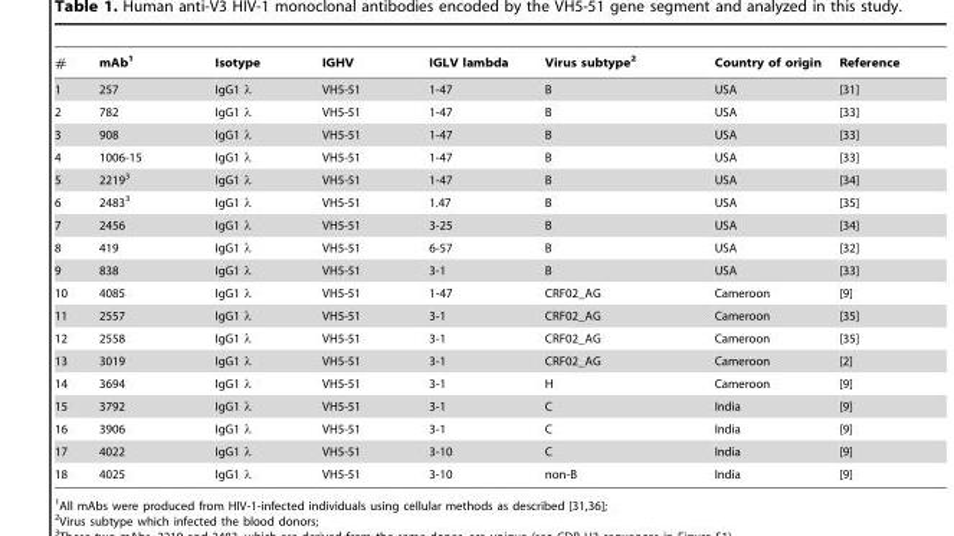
<table><thead><tr><td>#</td><td>mAb<sup>1</sup></td><td>Isotype</td><td>IGHV</td><td>IGLV lambda</td><td>Virus subtype<sup>2</sup></td><td>Country of origin</td><td>Reference</td></tr></thead><tbody><tr><td>1</td><td>257</td><td>IgG1 λ</td><td>VH5-51</td><td>1-47</td><td>B</td><td>USA</td><td>[31]</td></tr><tr><td>2</td><td>782</td><td>IgG1 λ</td><td>VH5-51</td><td>1-47</td><td>B</td><td>USA</td><td>[33]</td></tr><tr><td>3</td><td>908</td><td>IgG1 λ</td><td>VH5-51</td><td>1-47</td><td>B</td><td>USA</td><td>[33]</td></tr><tr><td>4</td><td>1006-15</td><td>IgG1 λ</td><td>VH5-51</td><td>1-47</td><td>B</td><td>USA</td><td>[33]</td></tr><tr><td>5</td><td>2219<sup>3</sup></td><td>IgG1 λ</td><td>VH5-51</td><td>1-47</td><td>B</td><td>USA</td><td>[34]</td></tr><tr><td>6</td><td>2483<sup>3</sup></td><td>IgG1 λ</td><td>VH5-51</td><td>1.47</td><td>B</td><td>USA</td><td>[35]</td></tr><tr><td>7</td><td>2456</td><td>IgG1 λ</td><td>VH5-51</td><td>3-25</td><td>B</td><td>USA</td><td>[34]</td></tr><tr><td>8</td><td>419</td><td>IgG1 λ</td><td>VH5-51</td><td>6-57</td><td>B</td><td>USA</td><td>[32]</td></tr><tr><td>9</td><td>838</td><td>IgG1 λ</td><td>VH5-51</td><td>3-1</td><td>B</td><td>USA</td><td>[33]</td></tr><tr><td>10</td><td>4085</td><td>IgG1 λ</td><td>VH5-51</td><td>1-47</td><td>CRF02_AG</td><td>Cameroon</td><td>[9]</td></tr><tr><td>11</td><td>2557</td><td>IgG1 λ</td><td>VH5-51</td><td>3-1</td><td>CRF02_AG</td><td>Cameroon</td><td>[35]</td></tr><tr><td>12</td><td>2558</td><td>IgG1 λ</td><td>VH5-51</td><td>3-1</td><td>CRF02_AG</td><td>Cameroon</td><td>[35]</td></tr><tr><td>13</td><td>3019</td><td>IgG1 λ</td><td>VH5-51</td><td>3-1</td><td>CRF02_AG</td><td>Cameroon</td><td>[2]</td></tr><tr><td>14</td><td>3694</td><td>IgG1 λ</td><td>VH5-51</td><td>3-1</td><td>H</td><td>Cameroon</td><td>[9]</td></tr><tr><td>15</td><td>3792</td><td>IgG1 λ</td><td>VH5-51</td><td>3-1</td><td>C</td><td>India</td><td>[9]</td></tr><tr><td>16</td><td>3906</td><td>IgG1 λ</td><td>VH5-51</td><td>3-1</td><td>C</td><td>India</td><td>[9]</td></tr><tr><td>17</td><td>4022</td><td>IgG1 λ</td><td>VH5-51</td><td>3-10</td><td>C</td><td>India</td><td>[9]</td></tr><tr><td>18</td><td>4025</td><td>IgG1 λ</td><td>VH5-51</td><td>3-10</td><td>non-B</td><td>India</td><td>[9]</td></tr></tbody></table>